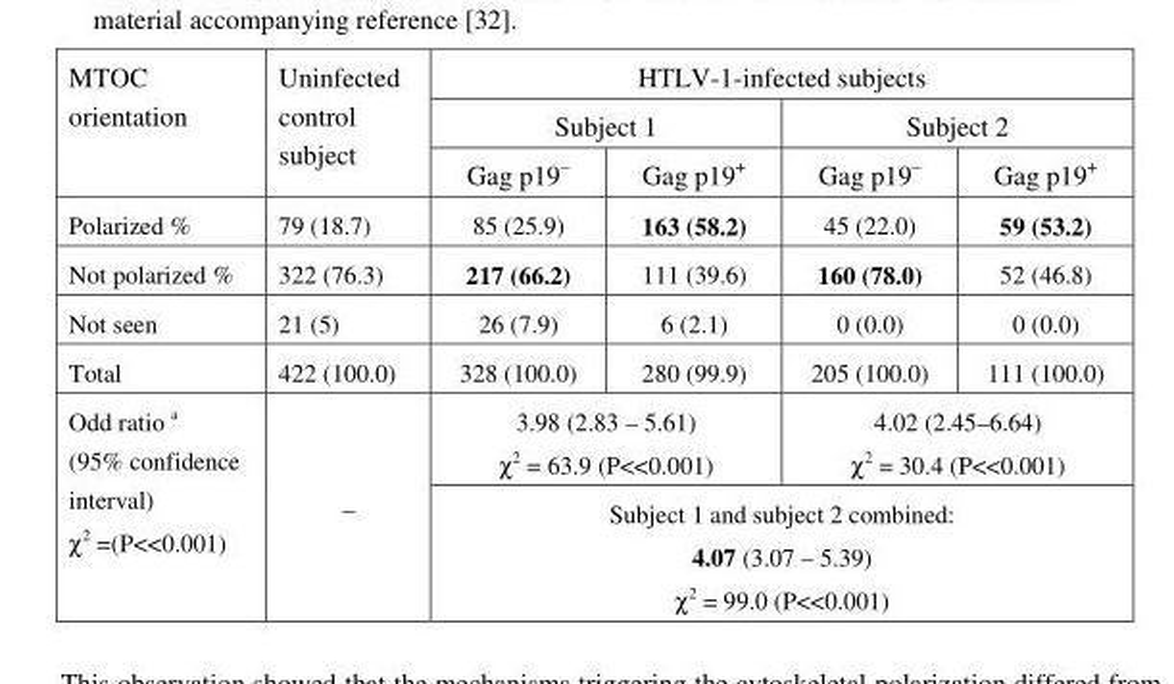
<table><thead><tr><td rowspan="3">MTOC orientation</td><td rowspan="3">Uninfected control subject</td><td colspan="4">HTLV-1-infected subjects</td></tr><tr><td colspan="2">Subject 1</td><td colspan="2">Subject 2</td></tr><tr><td>Gag p19<sup>–</sup></td><td>Gag p19<sup>+</sup></td><td>Gag p19<sup>–</sup></td><td>Gag p19<sup>+</sup></td></tr></thead><tbody><tr><td>Polarized %</td><td>79 (18.7)</td><td>85 (25.9)</td><td>163 (58.2)</td><td>45 (22.0)</td><td>59 (53.2)</td></tr><tr><td>Not polarized %</td><td>322 (76.3)</td><td>217 (66.2)</td><td>111 (39.6)</td><td>160 (78.0)</td><td>52 (46.8)</td></tr><tr><td>Not seen</td><td>21 (5)</td><td>26 (7.9)</td><td>6 (2.1)</td><td>0 (0.0)</td><td>0 (0.0)</td></tr><tr><td>Total</td><td>422 (100.0)</td><td>328 (100.0)</td><td>280 (99.9)</td><td>205 (100.0)</td><td>111 (100.0)</td></tr><tr><td rowspan="2">Odd ratio <sup>a</sup> (95% confidence interval) χ<sup>2</sup> =(P&lt;&lt;0.001)</td><td rowspan="2">–</td><td colspan="2">3.98 (2.83 – 5.61) χ<sup>2</sup> = 63.9 (P&lt;&lt;0.001)</td><td colspan="2">4.02 (2.45–6.64) χ<sup>2</sup> = 30.4 (P&lt;&lt;0.001)</td></tr><tr><td colspan="4">Subject 1 and subject 2 combined: 4.07 (3.07 – 5.39) χ<sup>2</sup> = 99.0 (P&lt;&lt;0.001)</td></tr></tbody></table>